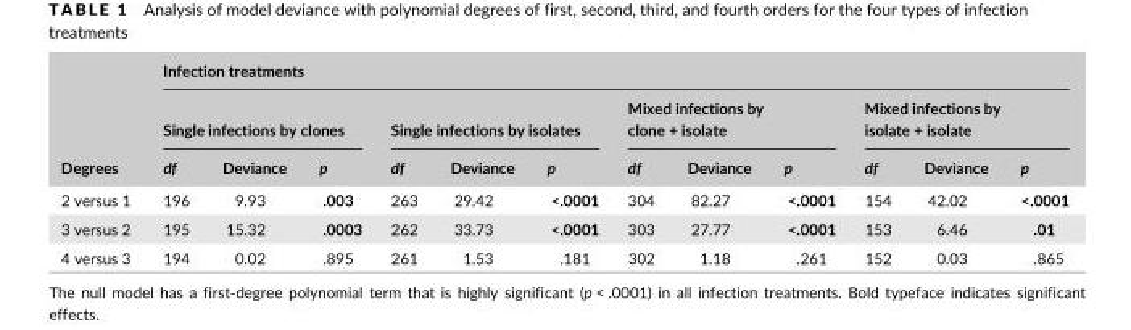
<table><thead><tr><td rowspan="3">Degrees</td><td colspan="12">Infection treatments</td></tr><tr><td colspan="3">Single infections by clones</td><td colspan="3">Single infections by isolates</td><td colspan="3">Mixed infections by clone + isolate</td><td colspan="3">Mixed infections by isolate + isolate</td></tr><tr><td>df</td><td>Deviance</td><td>p</td><td>df</td><td>Deviance</td><td>p</td><td>df</td><td>Deviance</td><td>p</td><td>df</td><td>Deviance</td><td>p</td></tr></thead><tbody><tr><td>2 versus 1</td><td>196</td><td>9.93</td><td>.003</td><td>263</td><td>29.42</td><td>&lt;.0001</td><td>304</td><td>82.27</td><td>&lt;.0001</td><td>154</td><td>42.02</td><td>&lt;.0001</td></tr><tr><td>3 versus 2</td><td>195</td><td>15.32</td><td>.0003</td><td>262</td><td>33.73</td><td>&lt;.0001</td><td>303</td><td>27.77</td><td>&lt;.0001</td><td>153</td><td>6.46</td><td>.01</td></tr><tr><td>4 versus 3</td><td>194</td><td>0.02</td><td>.895</td><td>261</td><td>1.53</td><td>.181</td><td>302</td><td>1.18</td><td>.261</td><td>152</td><td>0.03</td><td>.865</td></tr></tbody></table>